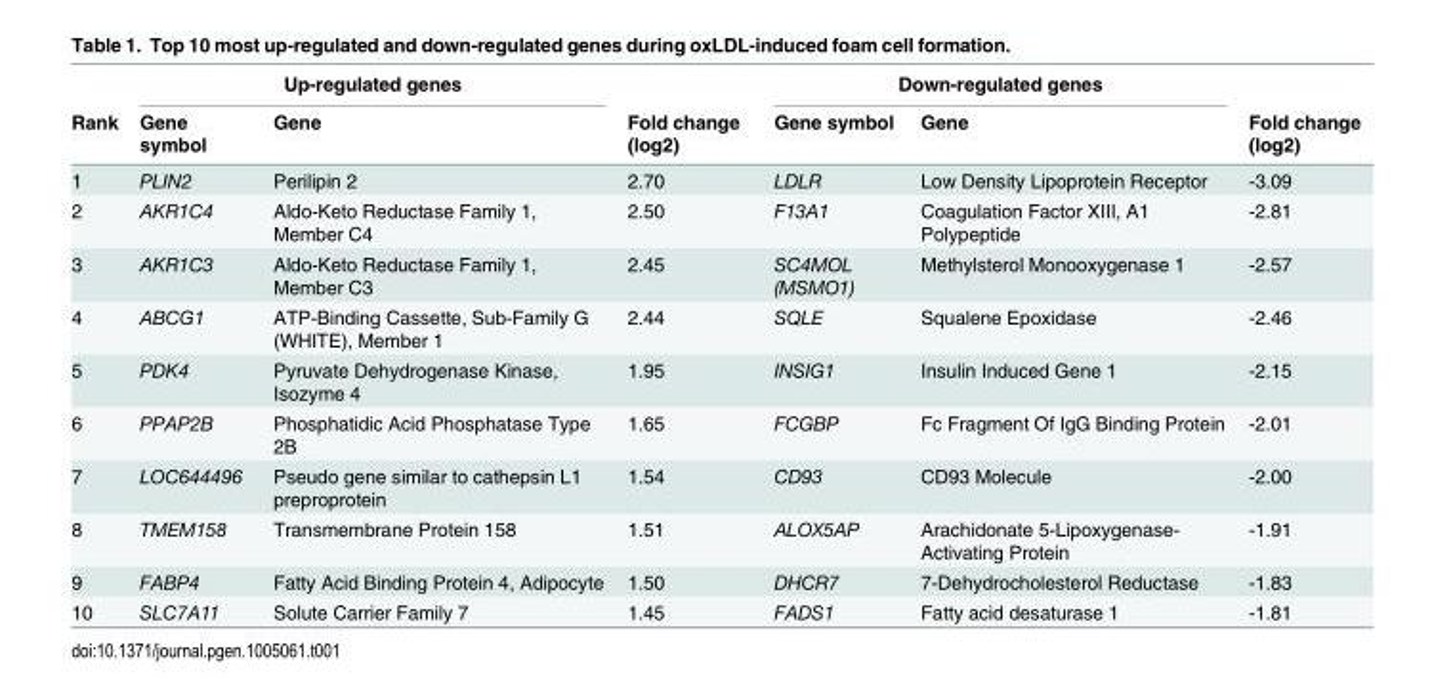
<table><thead><tr><td rowspan="2">Rank</td><td colspan="2">Up-regulated genes</td><td rowspan="2">Fold change (log2)</td><td colspan="2">Down-regulated genes</td><td rowspan="2">Fold change (log2)</td></tr><tr><td>Gene symbol</td><td>Gene</td><td>Gene symbol</td><td>Gene</td></tr></thead><tbody><tr><td>1</td><td>PLIN2</td><td>Perilipin 2</td><td>2.70</td><td>LDLR</td><td>Low Density Lipoprotein Receptor</td><td>-3.09</td></tr><tr><td>2</td><td>AKR1C4</td><td>Aldo-Keto Reductase Family 1, Member C4</td><td>2.50</td><td>F13A1</td><td>Coagulation Factor XIII, A1 Polypeptide</td><td>-2.81</td></tr><tr><td>3</td><td>AKR1C3</td><td>Aldo-Keto Reductase Family 1, Member C3</td><td>2.45</td><td>SC4MOL (MSMO1)</td><td>Methylsterol Monooxygenase 1</td><td>-2.57</td></tr><tr><td>4</td><td>ABCG1</td><td>ATP-Binding Cassette, Sub-Family G (WHITE), Member 1</td><td>2.44</td><td>SQLE</td><td>Squalene Epoxidase</td><td>-2.46</td></tr><tr><td>5</td><td>PDK4</td><td>Pyruvate Dehydrogenase Kinase, Isozyme 4</td><td>1.95</td><td>INSIG1</td><td>Insulin Induced Gene 1</td><td>-2.15</td></tr><tr><td>6</td><td>PPAP2B</td><td>Phosphatidic Acid Phosphatase Type 2B</td><td>1.65</td><td>FCGBP</td><td>Fc Fragment Of IgG Binding Protein</td><td>-2.01</td></tr><tr><td>7</td><td>LOC644496</td><td>Pseudo gene similar to cathepsin L1 preproprotein</td><td>1.54</td><td>CD93</td><td>CD93 Molecule</td><td>-2.00</td></tr><tr><td>8</td><td>TMEM158</td><td>Transmembrane Protein 158</td><td>1.51</td><td>ALOX5AP</td><td>Arachidonate 5-Lipoxygenase- Activating Protein</td><td>-1.91</td></tr><tr><td>9</td><td>FABP4</td><td>Fatty Acid Binding Protein 4, Adipocyte</td><td>1.50</td><td>DHCR7</td><td>7-Dehydrocholesterol Reductase</td><td>-1.83</td></tr><tr><td>10</td><td>SLC7A11</td><td>Solute Carrier Family 7</td><td>1.45</td><td>FADS1</td><td>Fatty acid desaturase 1</td><td>-1.81</td></tr></tbody></table>